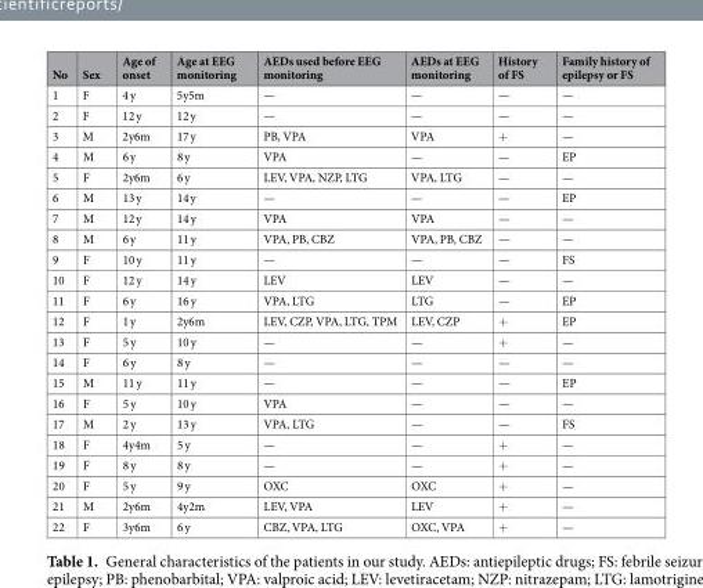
<table><thead><tr><td>No</td><td>Sex</td><td>Age of onset</td><td>Age at EEG monitoring</td><td>AEDs used before EEG monitoring</td><td>AEDs at EEG monitoring</td><td>History of FS</td><td>Family history of epilepsy or FS</td></tr></thead><tbody><tr><td>1</td><td>F</td><td>4 y</td><td>5y5m</td><td>—</td><td>—</td><td>—</td><td>—</td></tr><tr><td>2</td><td>F</td><td>12 y</td><td>12 y</td><td>—</td><td>—</td><td>—</td><td>—</td></tr><tr><td>3</td><td>M</td><td>2y6m</td><td>17 y</td><td>PB, VPA</td><td>VPA</td><td>+</td><td>—</td></tr><tr><td>4</td><td>M</td><td>6 y</td><td>8 y</td><td>VPA</td><td>—</td><td>—</td><td>EP</td></tr><tr><td>5</td><td>F</td><td>2y6m</td><td>6 y</td><td>LEV, VPA, NZP, LTG</td><td>VPA, LTG</td><td>—</td><td>—</td></tr><tr><td>6</td><td>M</td><td>13 y</td><td>14 y</td><td>—</td><td>—</td><td>—</td><td>EP</td></tr><tr><td>7</td><td>M</td><td>12 y</td><td>14 y</td><td>VPA</td><td>VPA</td><td>—</td><td>—</td></tr><tr><td>8</td><td>M</td><td>6 y</td><td>11 y</td><td>VPA, PB, CBZ</td><td>VPA, PB, CBZ</td><td>—</td><td>—</td></tr><tr><td>9</td><td>F</td><td>10 y</td><td>11 y</td><td>—</td><td>—</td><td>—</td><td>FS</td></tr><tr><td>10</td><td>F</td><td>12 y</td><td>14 y</td><td>LEV</td><td>LEV</td><td>—</td><td>—</td></tr><tr><td>11</td><td>F</td><td>6 y</td><td>16 y</td><td>VPA, LTG</td><td>LTG</td><td>—</td><td>EP</td></tr><tr><td>12</td><td>F</td><td>1 y</td><td>2y6m</td><td>LEV, CZP, VPA, LTG, TPM</td><td>LEV, CZP</td><td>+</td><td>EP</td></tr><tr><td>13</td><td>F</td><td>5 y</td><td>10 y</td><td>—</td><td>—</td><td>+</td><td>—</td></tr><tr><td>14</td><td>F</td><td>6 y</td><td>8 y</td><td>—</td><td>—</td><td>—</td><td>—</td></tr><tr><td>15</td><td>M</td><td>11 y</td><td>11 y</td><td>—</td><td>—</td><td>—</td><td>EP</td></tr><tr><td>16</td><td>F</td><td>5 y</td><td>10 y</td><td>VPA</td><td>—</td><td>—</td><td>—</td></tr><tr><td>17</td><td>M</td><td>2 y</td><td>13 y</td><td>VPA, LTG</td><td>—</td><td>—</td><td>FS</td></tr><tr><td>18</td><td>F</td><td>4y4m</td><td>5 y</td><td>—</td><td>—</td><td>+</td><td>—</td></tr><tr><td>19</td><td>F</td><td>8 y</td><td>8 y</td><td>—</td><td>—</td><td>+</td><td>—</td></tr><tr><td>20</td><td>F</td><td>5 y</td><td>9 y</td><td>OXC</td><td>OXC</td><td>+</td><td>—</td></tr><tr><td>21</td><td>M</td><td>2y6m</td><td>4y2m</td><td>LEV, VPA</td><td>LEV</td><td>+</td><td>—</td></tr><tr><td>22</td><td>F</td><td>3y6m</td><td>6 y</td><td>CBZ, VPA, LTG</td><td>OXC, VPA</td><td>+</td><td>—</td></tr></tbody></table>